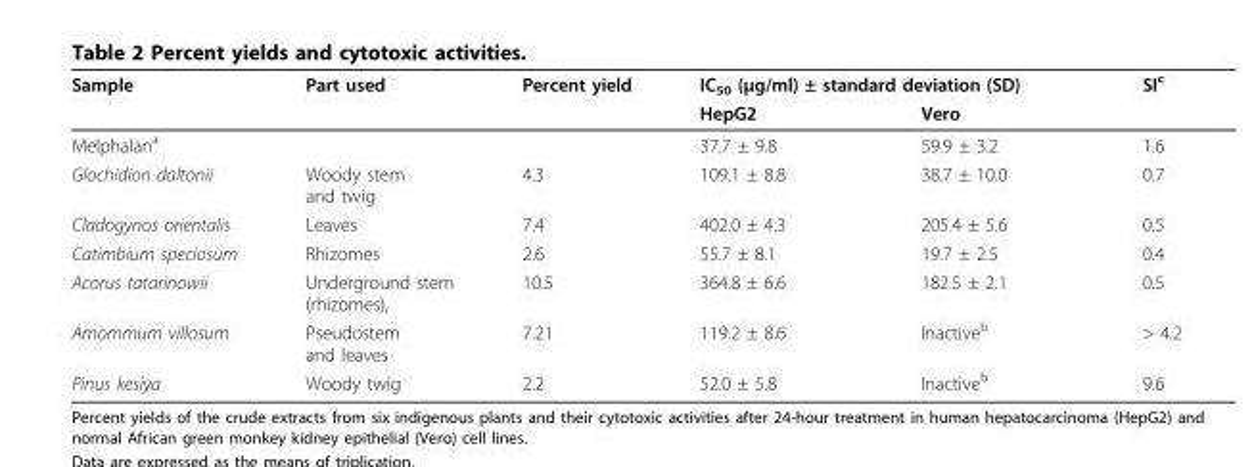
<table><thead><tr><td rowspan="2">Sample</td><td rowspan="2">Part used</td><td rowspan="2">Percent yield</td><td colspan="2">IC<sub>50</sub> (μg/ml) ± standard deviation (SD)</td><td rowspan="2">SI<sup>c</sup></td></tr><tr><td>HepG2</td><td>Vero</td></tr></thead><tbody><tr><td>Melphalan<sup>a</sup></td><td></td><td></td><td>37.7 ± 9.8</td><td>59.9 ± 3.2</td><td>1.6</td></tr><tr><td>Glochidion daltonii</td><td>Woody stem and twig</td><td>4.3</td><td>109.1 ± 8.8</td><td>38.7 ± 10.0</td><td>0.7</td></tr><tr><td>Cladogynos orientalis</td><td>Leaves</td><td>7.4</td><td>402.0 ± 4.3</td><td>205.4 ± 5.6</td><td>0.5</td></tr><tr><td>Catimbium speciosum</td><td>Rhizomes</td><td>2.6</td><td>55.7 ± 8.1</td><td>19.7 ± 2.5</td><td>0.4</td></tr><tr><td>Acorus tatarinowii</td><td>Underground stem (rhizomes),</td><td>10.5</td><td>364.8 ± 6.6</td><td>182.5 ± 2.1</td><td>0.5</td></tr><tr><td>Amommum villosum</td><td>Pseudostem and leaves</td><td>7.21</td><td>119.2 ± 8.6</td><td>Inactive<sup>b</sup></td><td>&gt; 4.2</td></tr><tr><td>Pinus kesiya</td><td>Woody twig</td><td>2.2</td><td>52.0 ± 5.8</td><td>Inactive<sup>b</sup></td><td>9.6</td></tr></tbody></table>